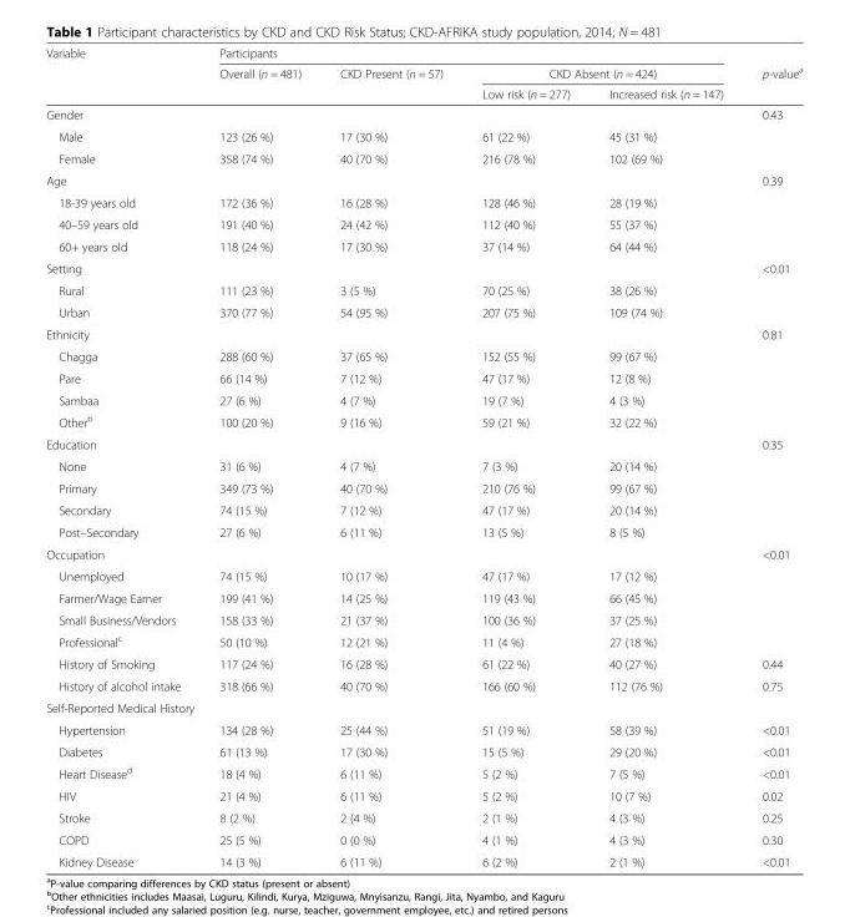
<table><thead><tr><td rowspan="3">Variable</td><td colspan="4">Participants</td><td rowspan="3">p-value<sup>a</sup></td></tr><tr><td rowspan="2">Overall (n = 481)</td><td rowspan="2">CKD Present (n = 57)</td><td colspan="2">CKD Absent (n = 424)</td></tr><tr><td>Low risk (n = 277)</td><td>Increased risk (n = 147)</td></tr></thead><tbody><tr><td>Gender</td><td></td><td></td><td></td><td></td><td>0.43</td></tr><tr><td>Male</td><td>123 (26 %)</td><td>17 (30 %)</td><td>61 (22 %)</td><td>45 (31 %)</td><td></td></tr><tr><td>Female</td><td>358 (74 %)</td><td>40 (70 %)</td><td>216 (78 %)</td><td>102 (69 %)</td><td></td></tr><tr><td>Age</td><td></td><td></td><td></td><td></td><td>0.39</td></tr><tr><td>18-39 years old</td><td>172 (36 %)</td><td>16 (28 %)</td><td>128 (46 %)</td><td>28 (19 %)</td><td></td></tr><tr><td>40–59 years old</td><td>191 (40 %)</td><td>24 (42 %)</td><td>112 (40 %)</td><td>55 (37 %)</td><td></td></tr><tr><td>60+ years old</td><td>118 (24 %)</td><td>17 (30 %)</td><td>37 (14 %)</td><td>64 (44 %)</td><td></td></tr><tr><td>Setting</td><td></td><td></td><td></td><td></td><td>&lt;0.01</td></tr><tr><td>Rural</td><td>111 (23 %)</td><td>3 (5 %)</td><td>70 (25 %)</td><td>38 (26 %)</td><td></td></tr><tr><td>Urban</td><td>370 (77 %)</td><td>54 (95 %)</td><td>207 (75 %)</td><td>109 (74 %)</td><td></td></tr><tr><td>Ethnicity</td><td></td><td></td><td></td><td></td><td>0.81</td></tr><tr><td>Chagga</td><td>288 (60 %)</td><td>37 (65 %)</td><td>152 (55 %)</td><td>99 (67 %)</td><td></td></tr><tr><td>Pare</td><td>66 (14 %)</td><td>7 (12 %)</td><td>47 (17 %)</td><td>12 (8 %)</td><td></td></tr><tr><td>Sambaa</td><td>27 (6 %)</td><td>4 (7 %)</td><td>19 (7 %)</td><td>4 (3 %)</td><td></td></tr><tr><td>Other<sup>b</sup></td><td>100 (20 %)</td><td>9 (16 %)</td><td>59 (21 %)</td><td>32 (22 %)</td><td></td></tr><tr><td>Education</td><td></td><td></td><td></td><td></td><td>0.35</td></tr><tr><td>None</td><td>31 (6 %)</td><td>4 (7 %)</td><td>7 (3 %)</td><td>20 (14 %)</td><td></td></tr><tr><td>Primary</td><td>349 (73 %)</td><td>40 (70 %)</td><td>210 (76 %)</td><td>99 (67 %)</td><td></td></tr><tr><td>Secondary</td><td>74 (15 %)</td><td>7 (12 %)</td><td>47 (17 %)</td><td>20 (14 %)</td><td></td></tr><tr><td>Post–Secondary</td><td>27 (6 %)</td><td>6 (11 %)</td><td>13 (5 %)</td><td>8 (5 %)</td><td></td></tr><tr><td>Occupation</td><td></td><td></td><td></td><td></td><td>&lt;0.01</td></tr><tr><td>Unemployed</td><td>74 (15 %)</td><td>10 (17 %)</td><td>47 (17 %)</td><td>17 (12 %)</td><td></td></tr><tr><td>Farmer/Wage Earner</td><td>199 (41 %)</td><td>14 (25 %)</td><td>119 (43 %)</td><td>66 (45 %)</td><td></td></tr><tr><td>Small Business/Vendors</td><td>158 (33 %)</td><td>21 (37 %)</td><td>100 (36 %)</td><td>37 (25 %)</td><td></td></tr><tr><td>Professional<sup>c</sup></td><td>50 (10 %)</td><td>12 (21 %)</td><td>11 (4 %)</td><td>27 (18 %)</td><td></td></tr><tr><td>History of Smoking</td><td>117 (24 %)</td><td>16 (28 %)</td><td>61 (22 %)</td><td>40 (27 %)</td><td>0.44</td></tr><tr><td>History of alcohol intake</td><td>318 (66 %)</td><td>40 (70 %)</td><td>166 (60 %)</td><td>112 (76 %)</td><td>0.75</td></tr><tr><td colspan="6">Self-Reported Medical History</td></tr><tr><td>Hypertension</td><td>134 (28 %)</td><td>25 (44 %)</td><td>51 (19 %)</td><td>58 (39 %)</td><td>&lt;0.01</td></tr><tr><td>Diabetes</td><td>61 (13 %)</td><td>17 (30 %)</td><td>15 (5 %)</td><td>29 (20 %)</td><td>&lt;0.01</td></tr><tr><td>Heart Disease<sup>d</sup></td><td>18 (4 %)</td><td>6 (11 %)</td><td>5 (2 %)</td><td>7 (5 %)</td><td>&lt;0.01</td></tr><tr><td>HIV</td><td>21 (4 %)</td><td>6 (11 %)</td><td>5 (2 %)</td><td>10 (7 %)</td><td>0.02</td></tr><tr><td>Stroke</td><td>8 (2 %)</td><td>2 (4 %)</td><td>2 (1 %)</td><td>4 (3 %)</td><td>0.25</td></tr><tr><td>COPD</td><td>25 (5 %)</td><td>0 (0 %)</td><td>4 (1 %)</td><td>4 (3 %)</td><td>0.30</td></tr><tr><td>Kidney Disease</td><td>14 (3 %)</td><td>6 (11 %)</td><td>6 (2 %)</td><td>2 (1 %)</td><td>&lt;0.01</td></tr></tbody></table>